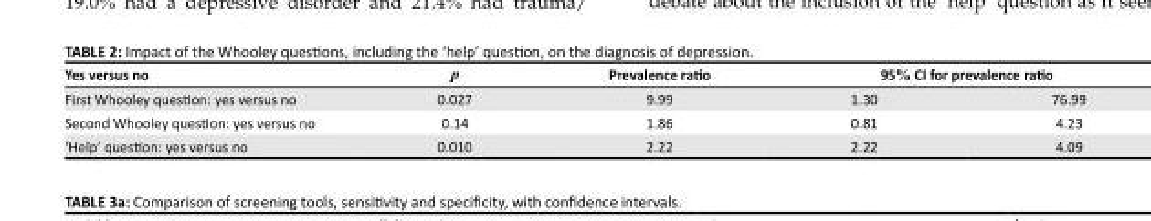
<table><thead><tr><td rowspan="2">Yes versus no First Whooley question: yes versus no</td><td rowspan="2">p 0.027</td><td rowspan="2">Prevalence ratio 9.99</td><td colspan="2">95% CI for prevalence ratio</td></tr><tr><td>1.30</td><td>76.99</td></tr></thead><tbody><tr><td>Second Whooley question: yes versus no</td><td>0.14</td><td>1.86</td><td>0.81</td><td>4.23</td></tr><tr><td>‘Help’ question: yes versus no</td><td>0.010</td><td>2.22</td><td>2.22</td><td>4.09</td></tr></tbody></table>